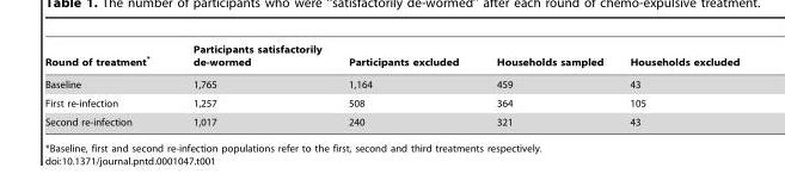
<table><thead><tr><td>Round of treatment*</td><td>Participants satisfactorily de-wormed</td><td>Participants excluded</td><td>Households sampled</td><td>Households excluded</td></tr></thead><tbody><tr><td>Baseline</td><td>1,765</td><td>1,164</td><td>459</td><td>43</td></tr><tr><td>First re-infection</td><td>1,257</td><td>508</td><td>364</td><td>105</td></tr><tr><td>Second re-infection</td><td>1,017</td><td>240</td><td>321</td><td>43</td></tr></tbody></table>